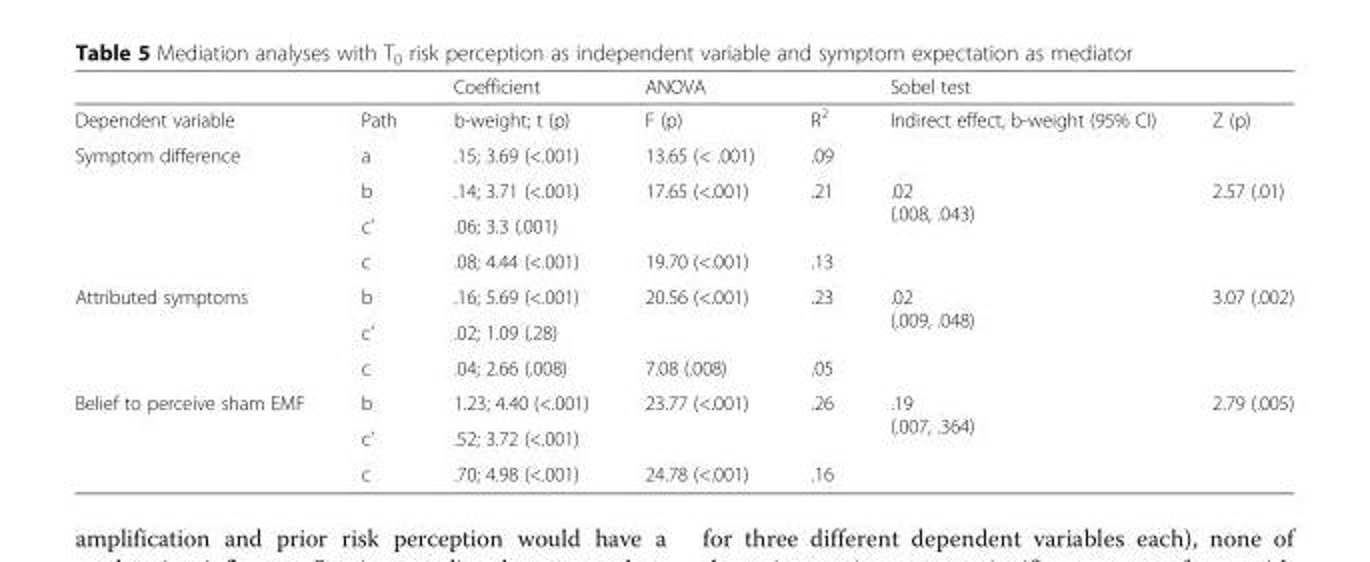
<table><thead><tr><td rowspan="2">Dependent variable</td><td rowspan="2">Path</td><td rowspan="2">Coefficient b-weight; t (p)</td><td colspan="2">ANOVA</td><td colspan="2">Sobel test</td></tr><tr><td>F (p)</td><td>R<sup>2</sup></td><td>Indirect effect, b-weight (95% CI)</td><td>Z (p)</td></tr></thead><tbody><tr><td rowspan="4">Symptom difference</td><td>a</td><td>.15; 3.69 (&lt;.001)</td><td>13.65 (&lt; .001)</td><td>.09</td><td></td><td></td></tr><tr><td>b</td><td>.14; 3.71 (&lt;.001)</td><td rowspan="2">17.65 (&lt;.001)</td><td rowspan="2">.21</td><td rowspan="3">.02 (.008, .043)</td><td rowspan="3">2.57 (.01)</td></tr><tr><td>c’</td><td>.06; 3.3 (.001)</td></tr><tr><td>c</td><td>.08; 4.44 (&lt;.001)</td><td>19.70 (&lt;.001)</td><td>.13</td></tr><tr><td rowspan="3">Attributed symptoms</td><td>b</td><td>.16; 5.69 (&lt;.001)</td><td rowspan="2">20.56 (&lt;.001)</td><td rowspan="2">.23</td><td rowspan="3">.02 (.009, .048)</td><td rowspan="3">3.07 (.002)</td></tr><tr><td>c’</td><td>.02; 1.09 (.28)</td></tr><tr><td>c</td><td>.04; 2.66 (.008)</td><td>7.08 (.008)</td><td>.05</td></tr><tr><td rowspan="3">Belief to perceive sham EMF</td><td>b</td><td>1.23; 4.40 (&lt;.001)</td><td rowspan="2">23.77 (&lt;.001)</td><td rowspan="2">.26</td><td rowspan="3">.19 (.007, .364)</td><td rowspan="3">2.79 (.005)</td></tr><tr><td>c’</td><td>.52; 3.72 (&lt;.001)</td></tr><tr><td>c</td><td>.70; 4.98 (&lt;.001)</td><td>24.78 (&lt;.001)</td><td>.16</td></tr></tbody></table>